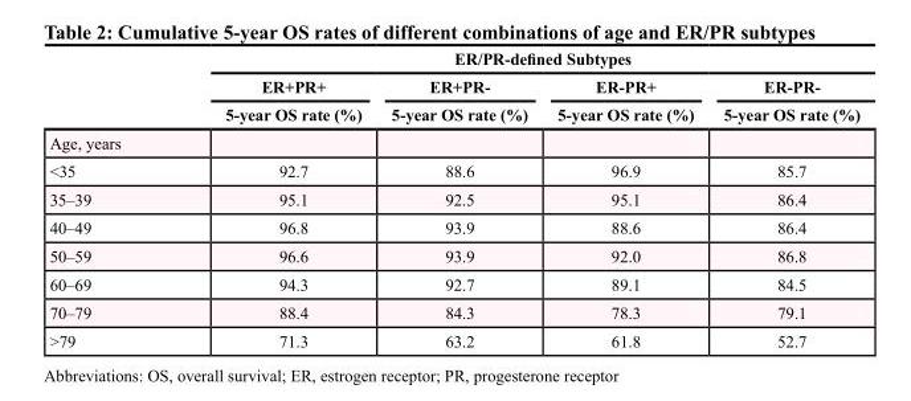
<table><thead><tr><td rowspan="3"></td><td colspan="4">ER/PR-defined Subtypes</td></tr><tr><td rowspan="2">ER+PR+ 5-year OS rate (%)</td><td rowspan="2">ER+PR- 5-year OS rate (%)</td><td rowspan="2">ER-PR+ 5-year OS rate (%)</td><td rowspan="2">ER-PR- 5-year OS rate (%)</td></tr><tr></tr></thead><tbody><tr><td colspan="5">Age, years</td></tr><tr><td>&lt;35</td><td>92.7</td><td>88.6</td><td>96.9</td><td>85.7</td></tr><tr><td>35–39</td><td>95.1</td><td>92.5</td><td>95.1</td><td>86.4</td></tr><tr><td>40–49</td><td>96.8</td><td>93.9</td><td>88.6</td><td>86.4</td></tr><tr><td>50–59</td><td>96.6</td><td>93.9</td><td>92.0</td><td>86.8</td></tr><tr><td>60–69</td><td>94.3</td><td>92.7</td><td>89.1</td><td>84.5</td></tr><tr><td>70–79</td><td>88.4</td><td>84.3</td><td>78.3</td><td>79.1</td></tr><tr><td>&gt;79</td><td>71.3</td><td>63.2</td><td>61.8</td><td>52.7</td></tr></tbody></table>